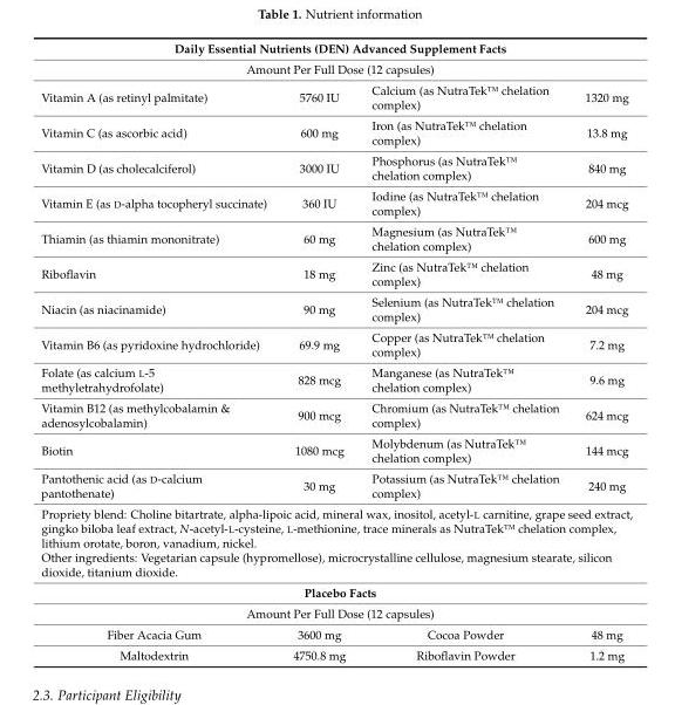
<table><tbody><tr><td colspan="4">Daily Essential Nutrients (DEN) Advanced Supplement Facts</td></tr><tr><td colspan="4">Amount Per Full Dose (12 capsules)</td></tr><tr><td>Vitamin A (as retinyl palmitate)</td><td>5760 IU</td><td>Calcium (as NutraTek™ chelation complex)</td><td>1320 mg</td></tr><tr><td>Vitamin C (as ascorbic acid)</td><td>600 mg</td><td>Iron (as NutraTek™ chelation complex)</td><td>13.8 mg</td></tr><tr><td>Vitamin D (as cholecalciferol)</td><td>3000 IU</td><td>Phosphorus (as NutraTek™ chelation complex)</td><td>840 mg</td></tr><tr><td>Vitamin E (as D-alpha tocopheryl succinate)</td><td>360 IU</td><td>Iodine (as NutraTek™ chelation complex)</td><td>204 mcg</td></tr><tr><td>Thiamin (as thiamin mononitrate)</td><td>60 mg</td><td>Magnesium (as NutraTek™ chelation complex)</td><td>600 mg</td></tr><tr><td>Riboflavin</td><td>18 mg</td><td>Zinc (as NutraTek™ chelation complex)</td><td>48 mg</td></tr><tr><td>Niacin (as niacinamide)</td><td>90 mg</td><td>Selenium (as NutraTek™ chelation complex)</td><td>204 mcg</td></tr><tr><td>Vitamin B6 (as pyridoxine hydrochloride)</td><td>69.9 mg</td><td>Copper (as NutraTek™ chelation complex)</td><td>7.2 mg</td></tr><tr><td>Folate (as calcium L-5 methyletrahydrofolate)</td><td>828 mcg</td><td>Manganese (as NutraTek™ chelation complex)</td><td>9.6 mg</td></tr><tr><td>Vitamin B12 (as methylcobalamin &amp; adenosylcobalamin)</td><td>900 mcg</td><td>Chromium (as NutraTek™ chelation complex)</td><td>624 mcg</td></tr><tr><td>Biotin</td><td>1080 mcg</td><td>Molybdenum (as NutraTek™ chelation complex)</td><td>144 mcg</td></tr><tr><td>Pantothenic acid (as D-calcium pantothenate)</td><td>30 mg</td><td>Potassium (as NutraTek™ chelation complex)</td><td>240 mg</td></tr><tr><td colspan="4">Propriety blend: Choline bitartrate, alpha-lipoic acid, mineral wax, inositol, acetyl-L carnitine, grape seed extract, gingko biloba leaf extract, N-acetyl-L-cysteine, L-methionine, trace minerals as NutraTek™ chelation complex, lithium orotate, boron, vanadium, nickel. Other ingredients: Vegetarian capsule (hypromellose), microcrystalline cellulose, magnesium stearate, silicon dioxide, titanium dioxide.</td></tr><tr><td colspan="4">Placebo Facts</td></tr><tr><td colspan="4">Amount Per Full Dose (12 capsules)</td></tr><tr><td>Fiber Acacia Gum</td><td>3600 mg</td><td>Cocoa Powder</td><td>48 mg</td></tr><tr><td>Maltodextrin</td><td>4750.8 mg</td><td>Riboflavin Powder</td><td>1.2 mg</td></tr></tbody></table>